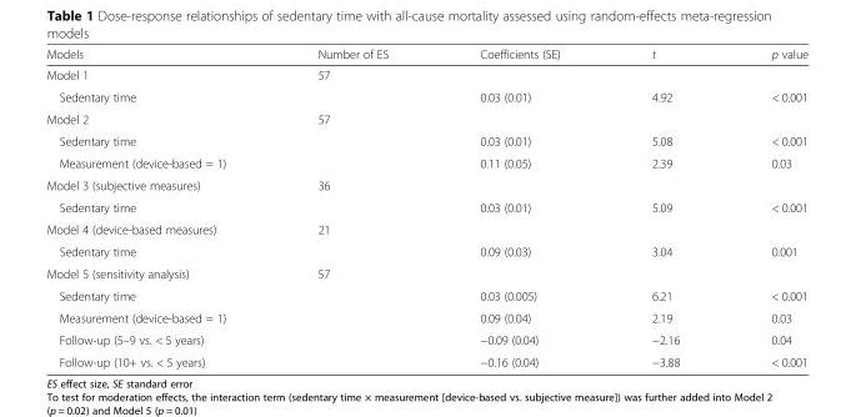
<table><thead><tr><td>Models</td><td>Number of ES</td><td>Coefficients (SE)</td><td>t</td><td>p value</td></tr></thead><tbody><tr><td>Model 1</td><td>57</td><td></td><td></td><td></td></tr><tr><td>Sedentary time</td><td></td><td>0.03 (0.01)</td><td>4.92</td><td>&lt; 0.001</td></tr><tr><td>Model 2</td><td>57</td><td></td><td></td><td></td></tr><tr><td>Sedentary time</td><td></td><td>0.03 (0.01)</td><td>5.08</td><td>&lt; 0.001</td></tr><tr><td>Measurement (device-based = 1)</td><td></td><td>0.11 (0.05)</td><td>2.39</td><td>0.03</td></tr><tr><td>Model 3 (subjective measures)</td><td>36</td><td></td><td></td><td></td></tr><tr><td>Sedentary time</td><td></td><td>0.03 (0.01)</td><td>5.09</td><td>&lt; 0.001</td></tr><tr><td>Model 4 (device-based measures)</td><td>21</td><td></td><td></td><td></td></tr><tr><td>Sedentary time</td><td></td><td>0.09 (0.03)</td><td>3.04</td><td>0.001</td></tr><tr><td>Model 5 (sensitivity analysis)</td><td>57</td><td></td><td></td><td></td></tr><tr><td>Sedentary time</td><td></td><td>0.03 (0.005)</td><td>6.21</td><td>&lt; 0.001</td></tr><tr><td>Measurement (device-based = 1)</td><td></td><td>0.09 (0.04)</td><td>2.19</td><td>0.03</td></tr><tr><td>Follow-up (5–9 vs. &lt; 5 years)</td><td></td><td>−0.09 (0.04)</td><td>−2.16</td><td>0.04</td></tr><tr><td>Follow-up (10+ vs. &lt; 5 years)</td><td></td><td>−0.16 (0.04)</td><td>−3.88</td><td>&lt; 0.001</td></tr></tbody></table>